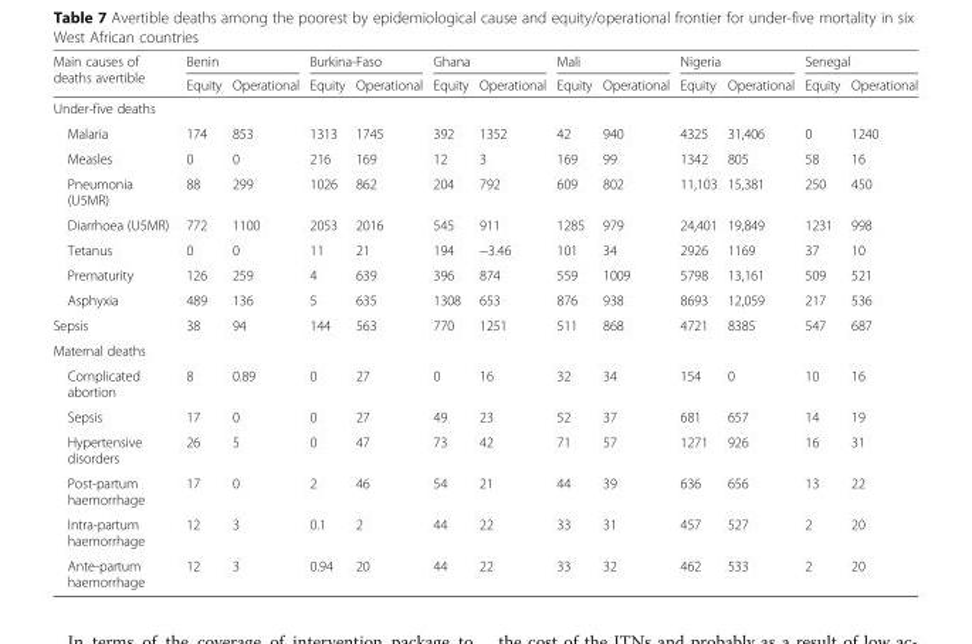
<table><thead><tr><td rowspan="2">Main causes of deaths avertible</td><td colspan="2">Benin</td><td colspan="2">Burkina-Faso</td><td colspan="2">Ghana</td><td colspan="2">Mali</td><td colspan="2">Nigeria</td><td colspan="2">Senegal</td></tr><tr><td>Equity</td><td>Operational</td><td>Equity</td><td>Operational</td><td>Equity</td><td>Operational</td><td>Equity</td><td>Operational</td><td>Equity</td><td>Operational</td><td>Equity</td><td>Operational</td></tr></thead><tbody><tr><td colspan="13">Under-five deaths</td></tr><tr><td>Malaria</td><td>174</td><td>853</td><td>1313</td><td>1745</td><td>392</td><td>1352</td><td>42</td><td>940</td><td>4325</td><td>31,406</td><td>0</td><td>1240</td></tr><tr><td>Measles</td><td>0</td><td>0</td><td>216</td><td>169</td><td>12</td><td>3</td><td>169</td><td>99</td><td>1342</td><td>805</td><td>58</td><td>16</td></tr><tr><td>Pneumonia (U5MR)</td><td>88</td><td>299</td><td>1026</td><td>862</td><td>204</td><td>792</td><td>609</td><td>802</td><td>11,103</td><td>15,381</td><td>250</td><td>450</td></tr><tr><td>Diarrhoea (U5MR)</td><td>772</td><td>1100</td><td>2053</td><td>2016</td><td>545</td><td>911</td><td>1285</td><td>979</td><td>24,401</td><td>19,849</td><td>1231</td><td>998</td></tr><tr><td>Tetanus</td><td>0</td><td>0</td><td>11</td><td>21</td><td>194</td><td>−3.46</td><td>101</td><td>34</td><td>2926</td><td>1169</td><td>37</td><td>10</td></tr><tr><td>Prematurity</td><td>126</td><td>259</td><td>4</td><td>639</td><td>396</td><td>874</td><td>559</td><td>1009</td><td>5798</td><td>13,161</td><td>509</td><td>521</td></tr><tr><td>Asphyxia</td><td>489</td><td>136</td><td>5</td><td>635</td><td>1308</td><td>653</td><td>876</td><td>938</td><td>8693</td><td>12,059</td><td>217</td><td>536</td></tr><tr><td>Sepsis</td><td>38</td><td>94</td><td>144</td><td>563</td><td>770</td><td>1251</td><td>511</td><td>868</td><td>4721</td><td>8385</td><td>547</td><td>687</td></tr><tr><td colspan="13">Maternal deaths</td></tr><tr><td>Complicated abortion</td><td>8</td><td>0.89</td><td>0</td><td>27</td><td>0</td><td>16</td><td>32</td><td>34</td><td>154</td><td>0</td><td>10</td><td>16</td></tr><tr><td>Sepsis</td><td>17</td><td>0</td><td>0</td><td>27</td><td>49</td><td>23</td><td>52</td><td>37</td><td>681</td><td>657</td><td>14</td><td>19</td></tr><tr><td>Hypertensive disorders</td><td>26</td><td>5</td><td>0</td><td>47</td><td>73</td><td>42</td><td>71</td><td>57</td><td>1271</td><td>926</td><td>16</td><td>31</td></tr><tr><td>Post-partum haemorrhage</td><td>17</td><td>0</td><td>2</td><td>46</td><td>54</td><td>21</td><td>44</td><td>39</td><td>636</td><td>656</td><td>13</td><td>22</td></tr><tr><td>Intra-partum haemorrhage</td><td>12</td><td>3</td><td>0.1</td><td>2</td><td>44</td><td>22</td><td>33</td><td>31</td><td>457</td><td>527</td><td>2</td><td>20</td></tr><tr><td>Ante-partum haemorrhage</td><td>12</td><td>3</td><td>0.94</td><td>20</td><td>44</td><td>22</td><td>33</td><td>32</td><td>462</td><td>533</td><td>2</td><td>20</td></tr></tbody></table>